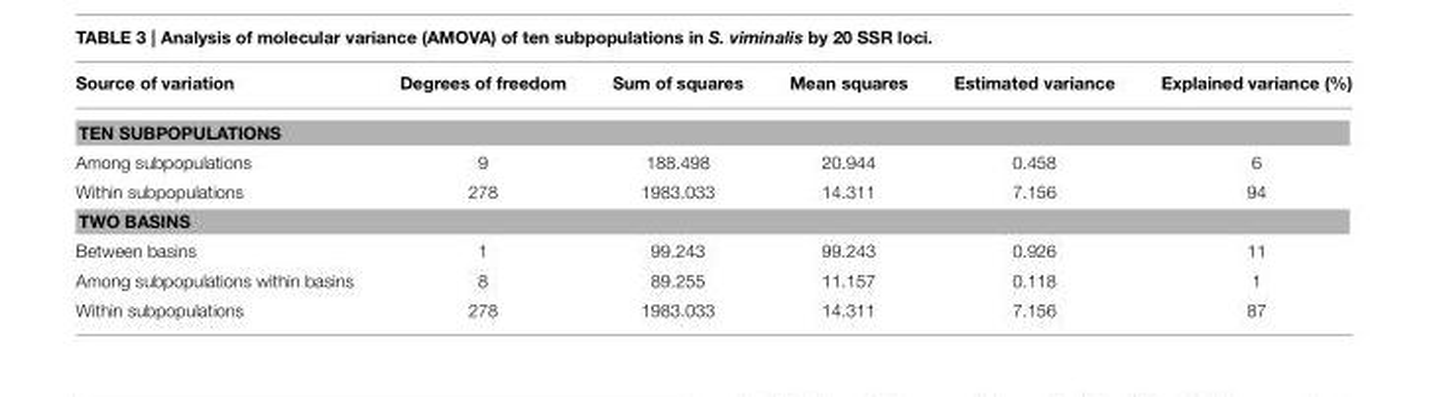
<table><thead><tr><td>Source of variation</td><td>Degrees of freedom</td><td>Sum of squares</td><td>Mean squares</td><td>Estimated variance</td><td>Explained variance (%)</td></tr></thead><tbody><tr><td colspan="6">TEN SUBPOPULATIONS</td></tr><tr><td>Among subpopulations</td><td>9</td><td>188.498</td><td>20.944</td><td>0.458</td><td>6</td></tr><tr><td>Within subpopulations</td><td>278</td><td>1983.033</td><td>14.311</td><td>7.156</td><td>94</td></tr><tr><td colspan="6">TWO BASINS</td></tr><tr><td>Between basins</td><td>1</td><td>99.243</td><td>99.243</td><td>0.926</td><td>11</td></tr><tr><td>Among subpopulations within basins</td><td>8</td><td>89.255</td><td>11.157</td><td>0.118</td><td>1</td></tr><tr><td>Within subpopulations</td><td>278</td><td>1983.033</td><td>14.311</td><td>7.156</td><td>87</td></tr></tbody></table>